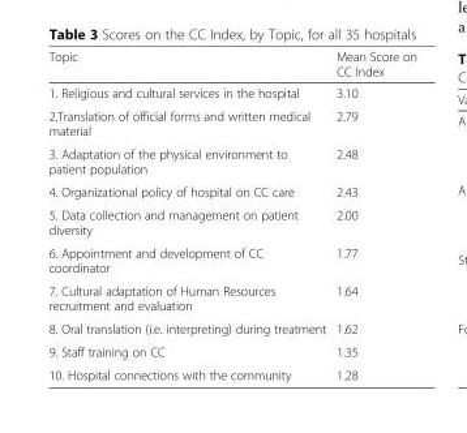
<table><thead><tr><td>Topic</td><td>Mean Score on CC Index</td></tr></thead><tbody><tr><td>1. Religious and cultural services in the hospital</td><td>3.10</td></tr><tr><td>2.Translation of official forms and written medical material</td><td>2.79</td></tr><tr><td>3. Adaptation of the physical environment to patient population</td><td>2.48</td></tr><tr><td>4. Organizational policy of hospital on CC care</td><td>2.43</td></tr><tr><td>5. Data collection and management on patient diversity</td><td>2.00</td></tr><tr><td>6. Appointment and development of CC coordinator</td><td>1.77</td></tr><tr><td>7. Cultural adaptation of Human Resources recruitment and evaluation</td><td>1.64</td></tr><tr><td>8. Oral translation (i.e. interpreting) during treatment</td><td>1.62</td></tr><tr><td>9. Staff training on CC</td><td>1.35</td></tr><tr><td>10. Hospital connections with the community</td><td>1.28</td></tr></tbody></table>